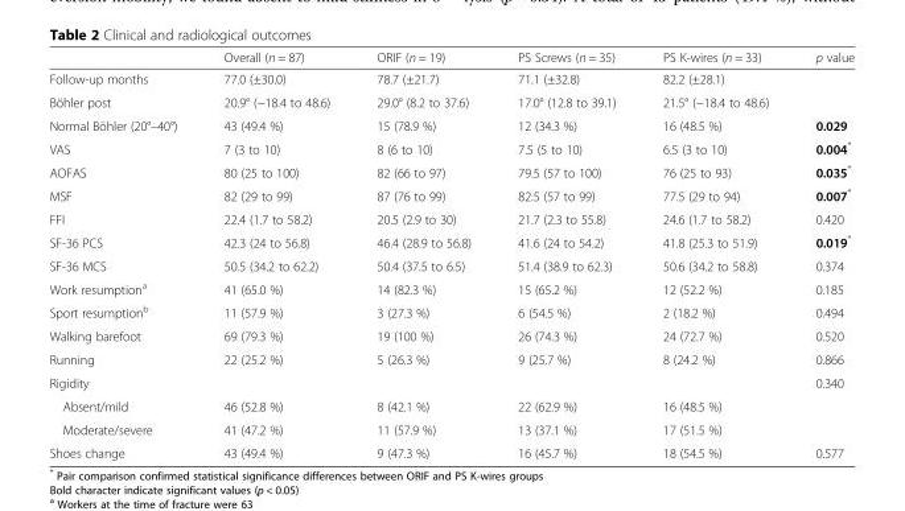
<table><thead><tr><td></td><td>Overall (n = 87)</td><td>ORIF (n = 19)</td><td>PS Screws (n = 35)</td><td>PS K-wires (n = 33)</td><td>p value</td></tr></thead><tbody><tr><td>Follow-up months</td><td>77.0 (±30.0)</td><td>78.7 (±21.7)</td><td>71.1 (±32.8)</td><td>82.2 (±28.1)</td><td></td></tr><tr><td>Böhler post</td><td>20.9° (−18.4 to 48.6)</td><td>29.0° (8.2 to 37.6)</td><td>17.0° (12.8 to 39.1)</td><td>21.5° (−18.4 to 48.6)</td><td></td></tr><tr><td>Normal Böhler (20°–40°)</td><td>43 (49.4 %)</td><td>15 (78.9 %)</td><td>12 (34.3 %)</td><td>16 (48.5 %)</td><td>0.029</td></tr><tr><td>VAS</td><td>7 (3 to 10)</td><td>8 (6 to 10)</td><td>7.5 (5 to 10)</td><td>6.5 (3 to 10)</td><td>0.004*</td></tr><tr><td>AOFAS</td><td>80 (25 to 100)</td><td>82 (66 to 97)</td><td>79.5 (57 to 100)</td><td>76 (25 to 93)</td><td>0.035*</td></tr><tr><td>MSF</td><td>82 (29 to 99)</td><td>87 (76 to 99)</td><td>82.5 (57 to 99)</td><td>77.5 (29 to 94)</td><td>0.007*</td></tr><tr><td>FFI</td><td>22.4 (1.7 to 58.2)</td><td>20.5 (2.9 to 30)</td><td>21.7 (2.3 to 55.8)</td><td>24.6 (1.7 to 58.2)</td><td>0.420</td></tr><tr><td>SF-36 PCS</td><td>42.3 (24 to 56.8)</td><td>46.4 (28.9 to 56.8)</td><td>41.6 (24 to 54.2)</td><td>41.8 (25.3 to 51.9)</td><td>0.019*</td></tr><tr><td>SF-36 MCS</td><td>50.5 (34.2 to 62.2)</td><td>50.4 (37.5 to 6.5)</td><td>51.4 (38.9 to 62.3)</td><td>50.6 (34.2 to 58.8)</td><td>0.374</td></tr><tr><td>Work resumption<sup>a</sup></td><td>41 (65.0 %)</td><td>14 (82.3 %)</td><td>15 (65.2 %)</td><td>12 (52.2 %)</td><td>0.185</td></tr><tr><td>Sport resumption<sup>b</sup></td><td>11 (57.9 %)</td><td>3 (27.3 %)</td><td>6 (54.5 %)</td><td>2 (18.2 %)</td><td>0.494</td></tr><tr><td>Walking barefoot</td><td>69 (79.3 %)</td><td>19 (100 %)</td><td>26 (74.3 %)</td><td>24 (72.7 %)</td><td>0.520</td></tr><tr><td>Running</td><td>22 (25.2 %)</td><td>5 (26.3 %)</td><td>9 (25.7 %)</td><td>8 (24.2 %)</td><td>0.866</td></tr><tr><td>Rigidity</td><td></td><td></td><td></td><td></td><td>0.340</td></tr><tr><td>Absent/mild</td><td>46 (52.8 %)</td><td>8 (42.1 %)</td><td>22 (62.9 %)</td><td>16 (48.5 %)</td><td></td></tr><tr><td>Moderate/severe</td><td>41 (47.2 %)</td><td>11 (57.9 %)</td><td>13 (37.1 %)</td><td>17 (51.5 %)</td><td></td></tr><tr><td>Shoes change</td><td>43 (49.4 %)</td><td>9 (47.3 %)</td><td>16 (45.7 %)</td><td>18 (54.5 %)</td><td>0.577</td></tr></tbody></table>